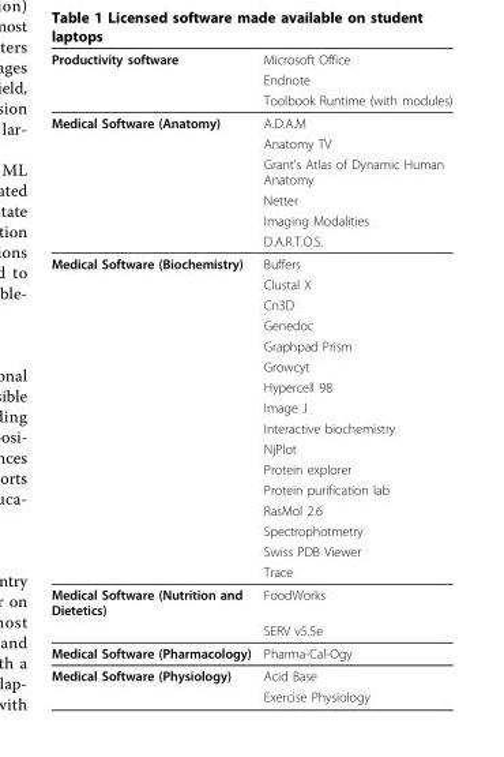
<table><thead><tr><td rowspan="3">Productivity software</td><td rowspan="3">Microsoft Office Endnote Toolbook Runtime (with modules)</td></tr><tr></tr><tr></tr></thead><tbody><tr><td rowspan="6">Medical Software (Anatomy)</td><td>A.D.A.M</td></tr><tr><td>Anatomy TV</td></tr><tr><td>Grant’s Atlas of Dynamic Human Anatomy</td></tr><tr><td>Netter</td></tr><tr><td>Imaging Modalities</td></tr><tr><td>D.A.R.T.O.S.</td></tr><tr><td rowspan="16">Medical Software (Biochemistry)</td><td>Buffers</td></tr><tr><td>Clustal X</td></tr><tr><td>Cn3D</td></tr><tr><td>Genedoc</td></tr><tr><td>Graphpad Prism</td></tr><tr><td>Growcyt</td></tr><tr><td>Hypercell 98</td></tr><tr><td>Image J</td></tr><tr><td>Interactive biochemistry</td></tr><tr><td>NjPlot</td></tr><tr><td>Protein explorer</td></tr><tr><td>Protein purification lab</td></tr><tr><td>RasMol 2.6</td></tr><tr><td>Spectrophotmetry</td></tr><tr><td>Swiss PDB Viewer</td></tr><tr><td>Trace</td></tr><tr><td rowspan="2">Medical Software (Nutrition and Dietetics)</td><td>FoodWorks</td></tr><tr><td>SERV v5.5e</td></tr><tr><td>Medical Software (Pharmacology)</td><td>Pharma-Cal-Ogy</td></tr><tr><td rowspan="2">Medical Software (Physiology)</td><td>Acid Base</td></tr><tr><td>Exercise Physiology</td></tr></tbody></table>